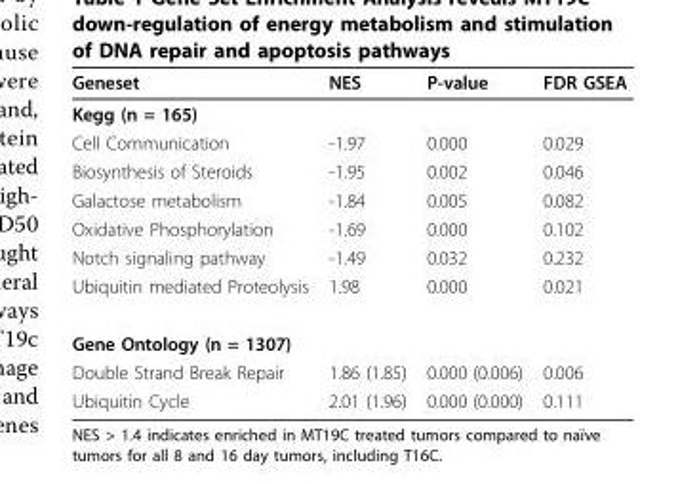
<table><thead><tr><td>Geneset</td><td>NES</td><td>P-value</td><td>FDR GSEA</td></tr></thead><tbody><tr><td colspan="4">Kegg (n = 165)</td></tr><tr><td>Cell Communication</td><td>-1.97</td><td>0.000</td><td>0.029</td></tr><tr><td>Biosynthesis of Steroids</td><td>-1.95</td><td>0.002</td><td>0.046</td></tr><tr><td>Galactose metabolism</td><td>-1.84</td><td>0.005</td><td>0.082</td></tr><tr><td>Oxidative Phosphorylation</td><td>-1.69</td><td>0.000</td><td>0.102</td></tr><tr><td>Notch signaling pathway</td><td>-1.49</td><td>0.032</td><td>0.232</td></tr><tr><td>Ubiquitin mediated Proteolysis</td><td>1.98</td><td>0.000</td><td>0.021</td></tr><tr><td colspan="4">Gene Ontology (n = 1307)</td></tr><tr><td>Double Strand Break Repair</td><td>1.86 (1.85)</td><td>0.000 (0.006)</td><td>0.006</td></tr><tr><td>Ubiquitin Cycle</td><td>2.01 (1.96)</td><td>0.000 (0.000)</td><td>0.111</td></tr></tbody></table>